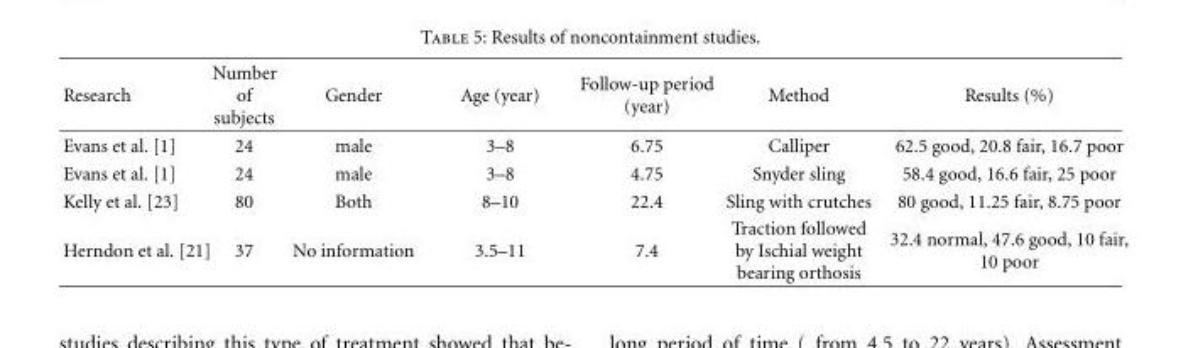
<table><thead><tr><td>Research</td><td>Number of subjects</td><td>Gender</td><td>Age (year)</td><td>Follow-up period (year)</td><td>Method</td><td>Results (%)</td></tr></thead><tbody><tr><td>Evans et al. [1]</td><td>24</td><td>male</td><td>3–8</td><td>6.75</td><td>Calliper</td><td>62.5 good, 20.8 fair, 16.7 poor</td></tr><tr><td>Evans et al. [1]</td><td>24</td><td>male</td><td>3–8</td><td>4.75</td><td>Snyder sling</td><td>58.4 good, 16.6 fair, 25 poor</td></tr><tr><td>Kelly et al. [23]</td><td>80</td><td>Both</td><td>8–10</td><td>22.4</td><td>Sling with crutches</td><td>80 good, 11.25 fair, 8.75 poor</td></tr><tr><td>Herndon et al. [21]</td><td>37</td><td>No information</td><td>3.5–11</td><td>7.4</td><td>Traction followed by Ischial weight bearing orthosis</td><td>32.4 normal, 47.6 good, 10 fair, 10 poor</td></tr></tbody></table>